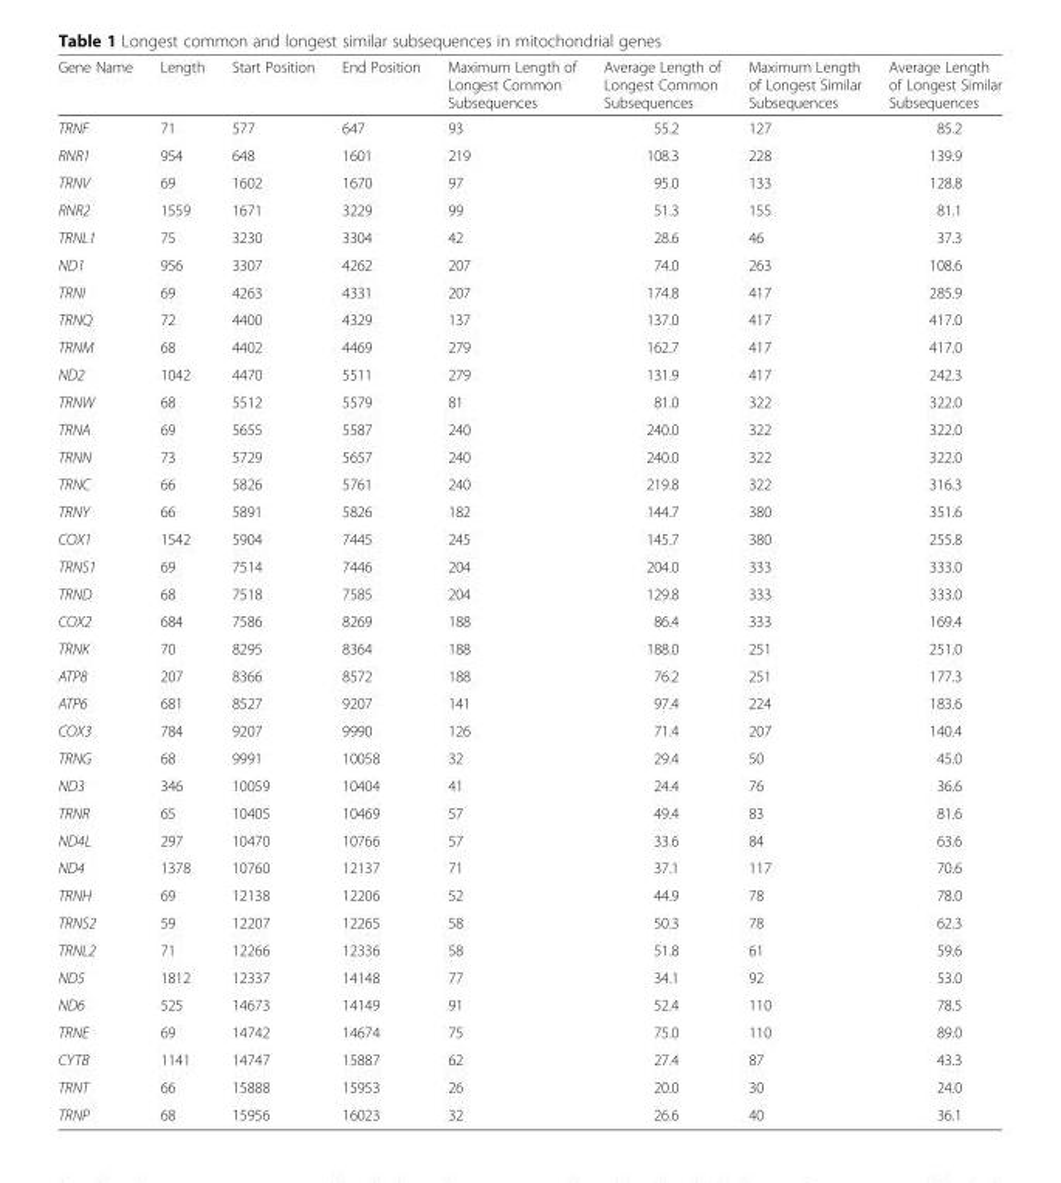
<table><thead><tr><td>Gene Name</td><td>Length</td><td>Start Position</td><td>End Position</td><td>Maximum Length of Longest Common Subsequences</td><td>Average Length of Longest Common Subsequences</td><td>Maximum Length of Longest Similar Subsequences</td><td>Average Length of Longest Similar Subsequences</td></tr></thead><tbody><tr><td>TRNF</td><td>71</td><td>577</td><td>647</td><td>93</td><td>55.2</td><td>127</td><td>85.2</td></tr><tr><td>RNR1</td><td>954</td><td>648</td><td>1601</td><td>219</td><td>108.3</td><td>228</td><td>139.9</td></tr><tr><td>TRNV</td><td>69</td><td>1602</td><td>1670</td><td>97</td><td>95.0</td><td>133</td><td>128.8</td></tr><tr><td>RNR2</td><td>1559</td><td>1671</td><td>3229</td><td>99</td><td>51.3</td><td>155</td><td>81.1</td></tr><tr><td>TRNL1</td><td>75</td><td>3230</td><td>3304</td><td>42</td><td>28.6</td><td>46</td><td>37.3</td></tr><tr><td>ND1</td><td>956</td><td>3307</td><td>4262</td><td>207</td><td>74.0</td><td>263</td><td>108.6</td></tr><tr><td>TRNI</td><td>69</td><td>4263</td><td>4331</td><td>207</td><td>174.8</td><td>417</td><td>285.9</td></tr><tr><td>TRNQ</td><td>72</td><td>4400</td><td>4329</td><td>137</td><td>137.0</td><td>417</td><td>417.0</td></tr><tr><td>TRNM</td><td>68</td><td>4402</td><td>4469</td><td>279</td><td>162.7</td><td>417</td><td>417.0</td></tr><tr><td>ND2</td><td>1042</td><td>4470</td><td>5511</td><td>279</td><td>131.9</td><td>417</td><td>242.3</td></tr><tr><td>TRNW</td><td>68</td><td>5512</td><td>5579</td><td>81</td><td>81.0</td><td>322</td><td>322.0</td></tr><tr><td>TRNA</td><td>69</td><td>5655</td><td>5587</td><td>240</td><td>240.0</td><td>322</td><td>322.0</td></tr><tr><td>TRNN</td><td>73</td><td>5729</td><td>5657</td><td>240</td><td>240.0</td><td>322</td><td>322.0</td></tr><tr><td>TRNC</td><td>66</td><td>5826</td><td>5761</td><td>240</td><td>219.8</td><td>322</td><td>316.3</td></tr><tr><td>TRNY</td><td>66</td><td>5891</td><td>5826</td><td>182</td><td>144.7</td><td>380</td><td>351.6</td></tr><tr><td>COX1</td><td>1542</td><td>5904</td><td>7445</td><td>245</td><td>145.7</td><td>380</td><td>255.8</td></tr><tr><td>TRNS1</td><td>69</td><td>7514</td><td>7446</td><td>204</td><td>204.0</td><td>333</td><td>333.0</td></tr><tr><td>TRND</td><td>68</td><td>7518</td><td>7585</td><td>204</td><td>129.8</td><td>333</td><td>333.0</td></tr><tr><td>COX2</td><td>684</td><td>7586</td><td>8269</td><td>188</td><td>86.4</td><td>333</td><td>169.4</td></tr><tr><td>TRNK</td><td>70</td><td>8295</td><td>8364</td><td>188</td><td>188.0</td><td>251</td><td>251.0</td></tr><tr><td>ATP8</td><td>207</td><td>8366</td><td>8572</td><td>188</td><td>76.2</td><td>251</td><td>177.3</td></tr><tr><td>ATP6</td><td>681</td><td>8527</td><td>9207</td><td>141</td><td>97.4</td><td>224</td><td>183.6</td></tr><tr><td>COX3</td><td>784</td><td>9207</td><td>9990</td><td>126</td><td>71.4</td><td>207</td><td>140.4</td></tr><tr><td>TRNG</td><td>68</td><td>9991</td><td>10058</td><td>32</td><td>29.4</td><td>50</td><td>45.0</td></tr><tr><td>ND3</td><td>346</td><td>10059</td><td>10404</td><td>41</td><td>24.4</td><td>76</td><td>36.6</td></tr><tr><td>TRNR</td><td>65</td><td>10405</td><td>10469</td><td>57</td><td>49.4</td><td>83</td><td>81.6</td></tr><tr><td>ND4L</td><td>297</td><td>10470</td><td>10766</td><td>57</td><td>33.6</td><td>84</td><td>63.6</td></tr><tr><td>ND4</td><td>1378</td><td>10760</td><td>12137</td><td>71</td><td>37.1</td><td>117</td><td>70.6</td></tr><tr><td>TRNH</td><td>69</td><td>12138</td><td>12206</td><td>52</td><td>44.9</td><td>78</td><td>78.0</td></tr><tr><td>TRNS2</td><td>59</td><td>12207</td><td>12265</td><td>58</td><td>50.3</td><td>78</td><td>62.3</td></tr><tr><td>TRNL2</td><td>71</td><td>12266</td><td>12336</td><td>58</td><td>51.8</td><td>61</td><td>59.6</td></tr><tr><td>ND5</td><td>1812</td><td>12337</td><td>14148</td><td>77</td><td>34.1</td><td>92</td><td>53.0</td></tr><tr><td>ND6</td><td>525</td><td>14673</td><td>14149</td><td>91</td><td>52.4</td><td>110</td><td>78.5</td></tr><tr><td>TRNE</td><td>69</td><td>14742</td><td>14674</td><td>75</td><td>75.0</td><td>110</td><td>89.0</td></tr><tr><td>CYTB</td><td>1141</td><td>14747</td><td>15887</td><td>62</td><td>27.4</td><td>87</td><td>43.3</td></tr><tr><td>TRNT</td><td>66</td><td>15888</td><td>15953</td><td>26</td><td>20.0</td><td>30</td><td>24.0</td></tr><tr><td>TRNP</td><td>68</td><td>15956</td><td>16023</td><td>32</td><td>26.6</td><td>40</td><td>36.1</td></tr></tbody></table>